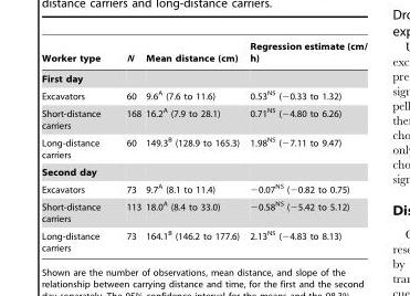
<table><thead><tr><td>Worker type</td><td>N</td><td>Mean distance (cm)</td><td>Regression estimate (cm/ h)</td></tr></thead><tbody><tr><td colspan="4">First day</td></tr><tr><td>Excavators</td><td>60</td><td>9.6<sup>A</sup> (7.6 to 11.6)</td><td>0.53<sup>NS</sup> (−0.33 to 1.32)</td></tr><tr><td>Short-distance carriers</td><td>168</td><td>16.2<sup>A</sup> (7.9 to 28.1)</td><td>0.71<sup>NS</sup> (−4.80 to 6.26)</td></tr><tr><td>Long-distance carriers</td><td>60</td><td>149.3<sup>B</sup> (128.9 to 165.3)</td><td>1.98<sup>NS</sup> (−7.11 to 9.47)</td></tr><tr><td colspan="4">Second day</td></tr><tr><td>Excavators</td><td>73</td><td>9.7<sup>A</sup> (8.1 to 11.4)</td><td>−0.07<sup>NS</sup> (−0.82 to 0.75)</td></tr><tr><td>Short-distance carriers</td><td>113</td><td>18.0<sup>A</sup> (8.4 to 33.0)</td><td>−0.58<sup>NS</sup> (−5.42 to 5.12)</td></tr><tr><td>Long-distance carriers</td><td>73</td><td>164.1<sup>B</sup> (146.2 to 177.6)</td><td>2.13<sup>NS</sup> (−4.83 to 8.13)</td></tr></tbody></table>